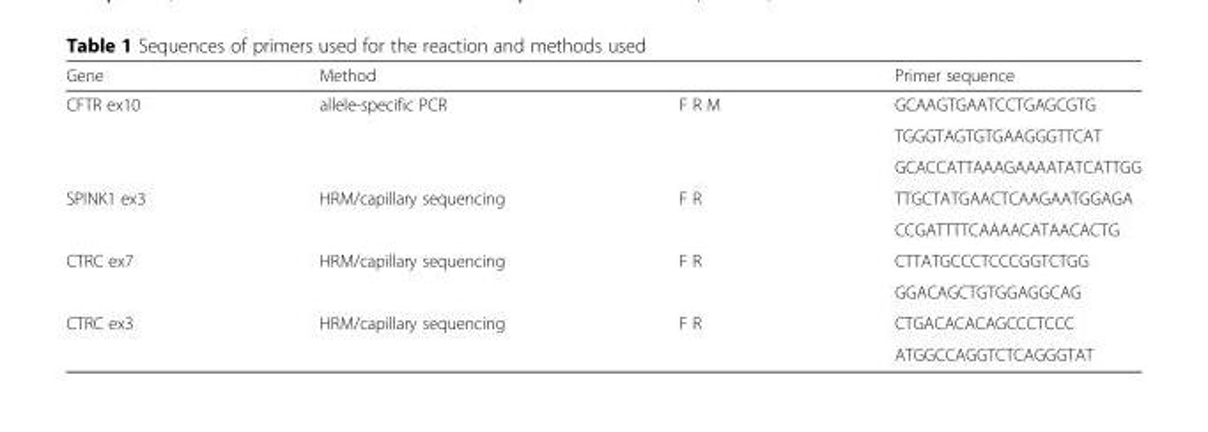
<table><thead><tr><td>Gene</td><td>Method</td><td></td><td>Primer sequence</td></tr></thead><tbody><tr><td rowspan="3">CFTR ex10</td><td rowspan="3">allele-specific PCR</td><td rowspan="3">F R M</td><td>GCAAGTGAATCCTGAGCGTG</td></tr><tr><td>TGGGTAGTGTGAAGGGTTCAT</td></tr><tr><td>GCACCATTAAAGAAAATATCATTGG</td></tr><tr><td rowspan="2">SPINK1 ex3</td><td rowspan="2">HRM/capillary sequencing</td><td rowspan="2">F R</td><td>TTGCTATGAACTCAAGAATGGAGA</td></tr><tr><td>CCGATTTTCAAAACATAACACTG</td></tr><tr><td rowspan="2">CTRC ex7</td><td rowspan="2">HRM/capillary sequencing</td><td rowspan="2">F R</td><td>CTTATGCCCTCCCGGTCTGG</td></tr><tr><td>GGACAGCTGTGGAGGCAG</td></tr><tr><td rowspan="2">CTRC ex3</td><td rowspan="2">HRM/capillary sequencing</td><td rowspan="2">F R</td><td>CTGACACACAGCCCTCCC</td></tr><tr><td>ATGGCCAGGTCTCAGGGTAT</td></tr></tbody></table>